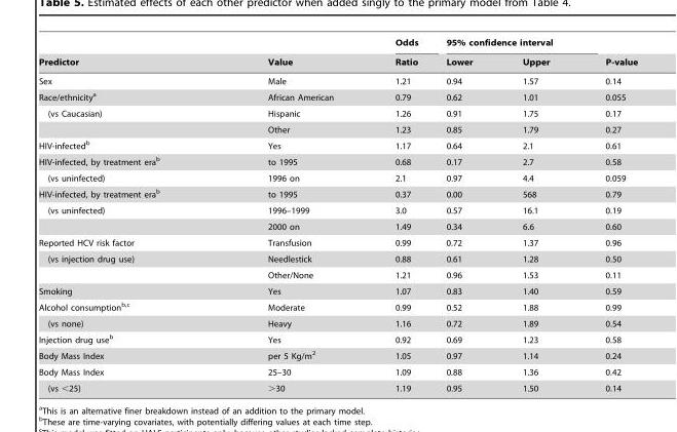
<table><thead><tr><td rowspan="2">Predictor</td><td rowspan="2">Value</td><td rowspan="2">Odds Ratio</td><td colspan="2">95% confidence interval</td><td rowspan="2">P-value</td></tr><tr><td>Lower</td><td>Upper</td></tr></thead><tbody><tr><td>Sex</td><td>Male</td><td>1.21</td><td>0.94</td><td>1.57</td><td>0.14</td></tr><tr><td>Race/ethnicity<sup>a</sup></td><td>African American</td><td>0.79</td><td>0.62</td><td>1.01</td><td>0.055</td></tr><tr><td rowspan="2">(vs Caucasian)</td><td>Hispanic</td><td>1.26</td><td>0.91</td><td>1.75</td><td>0.17</td></tr><tr><td>Other</td><td>1.23</td><td>0.85</td><td>1.79</td><td>0.27</td></tr><tr><td>HIV-infected<sup>b</sup></td><td>Yes</td><td>1.17</td><td>0.64</td><td>2.1</td><td>0.61</td></tr><tr><td>HIV-infected, by treatment era<sup>b</sup></td><td>to 1995</td><td>0.68</td><td>0.17</td><td>2.7</td><td>0.58</td></tr><tr><td>(vs uninfected)</td><td>1996 on</td><td>2.1</td><td>0.97</td><td>4.4</td><td>0.059</td></tr><tr><td>HIV-infected, by treatment era<sup>b</sup></td><td>to 1995</td><td>0.37</td><td>0.00</td><td>568</td><td>0.79</td></tr><tr><td rowspan="2">(vs uninfected)</td><td>1996–1999</td><td>3.0</td><td>0.57</td><td>16.1</td><td>0.19</td></tr><tr><td>2000 on</td><td>1.49</td><td>0.34</td><td>6.6</td><td>0.60</td></tr><tr><td>Reported HCV risk factor</td><td>Transfusion</td><td>0.99</td><td>0.72</td><td>1.37</td><td>0.96</td></tr><tr><td rowspan="2">(vs injection drug use)</td><td>Needlestick</td><td>0.88</td><td>0.61</td><td>1.28</td><td>0.50</td></tr><tr><td>Other/None</td><td>1.21</td><td>0.96</td><td>1.53</td><td>0.11</td></tr><tr><td>Smoking</td><td>Yes</td><td>1.07</td><td>0.83</td><td>1.40</td><td>0.59</td></tr><tr><td>Alcohol consumptionb,c</td><td>Moderate</td><td>0.99</td><td>0.52</td><td>1.88</td><td>0.99</td></tr><tr><td>(vs none)</td><td>Heavy</td><td>1.16</td><td>0.72</td><td>1.89</td><td>0.54</td></tr><tr><td>Injection drug use<sup>b</sup></td><td>Yes</td><td>0.92</td><td>0.69</td><td>1.23</td><td>0.58</td></tr><tr><td>Body Mass Index</td><td>per 5 Kg/m<sup>2</sup></td><td>1.05</td><td>0.97</td><td>1.14</td><td>0.24</td></tr><tr><td>Body Mass Index</td><td>25–30</td><td>1.09</td><td>0.88</td><td>1.36</td><td>0.42</td></tr><tr><td>(vs &lt;25)</td><td>&gt;30</td><td>1.19</td><td>0.95</td><td>1.50</td><td>0.14</td></tr></tbody></table>